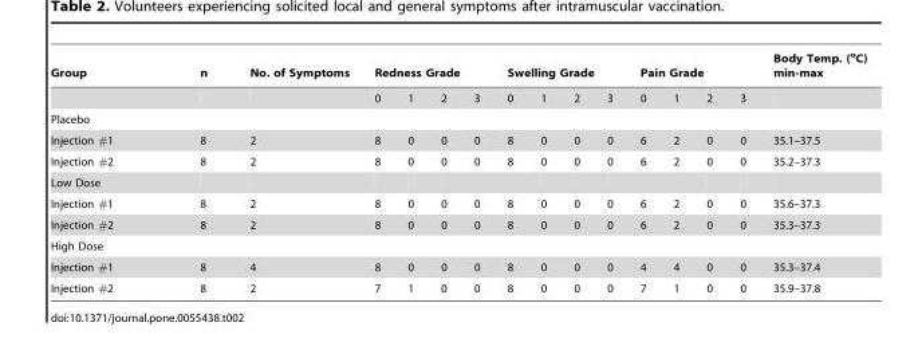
<table><thead><tr><td rowspan="2">Group</td><td rowspan="2">n</td><td rowspan="2">No. of Symptoms</td><td colspan="4">Redness Grade</td><td colspan="4">Swelling Grade</td><td colspan="4">Pain Grade</td><td rowspan="2">Body Temp. (<sup>o</sup>C) min-max</td></tr><tr><td>0</td><td>1</td><td>2</td><td>3</td><td>0</td><td>1</td><td>2</td><td>3</td><td>0</td><td>1</td><td>2</td><td>3</td></tr></thead><tbody><tr><td colspan="16">Placebo</td></tr><tr><td>Injection #1</td><td>8</td><td>2</td><td>8</td><td>0</td><td>0</td><td>0</td><td>8</td><td>0</td><td>0</td><td>0</td><td>6</td><td>2</td><td>0</td><td>0</td><td>35.1–37.5</td></tr><tr><td>Injection #2</td><td>8</td><td>2</td><td>8</td><td>0</td><td>0</td><td>0</td><td>8</td><td>0</td><td>0</td><td>0</td><td>6</td><td>2</td><td>0</td><td>0</td><td>35.2–37.3</td></tr><tr><td colspan="16">Low Dose</td></tr><tr><td>Injection #1</td><td>8</td><td>2</td><td>8</td><td>0</td><td>0</td><td>0</td><td>8</td><td>0</td><td>0</td><td>0</td><td>6</td><td>2</td><td>0</td><td>0</td><td>35.6–37.3</td></tr><tr><td>Injection #2</td><td>8</td><td>2</td><td>8</td><td>0</td><td>0</td><td>0</td><td>8</td><td>0</td><td>0</td><td>0</td><td>6</td><td>2</td><td>0</td><td>0</td><td>35.3–37.3</td></tr><tr><td colspan="16">High Dose</td></tr><tr><td>Injection #1</td><td>8</td><td>4</td><td>8</td><td>0</td><td>0</td><td>0</td><td>8</td><td>0</td><td>0</td><td>0</td><td>4</td><td>4</td><td>0</td><td>0</td><td>35.3–37.4</td></tr><tr><td>Injection #2</td><td>8</td><td>2</td><td>7</td><td>1</td><td>0</td><td>0</td><td>8</td><td>0</td><td>0</td><td>0</td><td>7</td><td>1</td><td>0</td><td>0</td><td>35.9–37.8</td></tr></tbody></table>